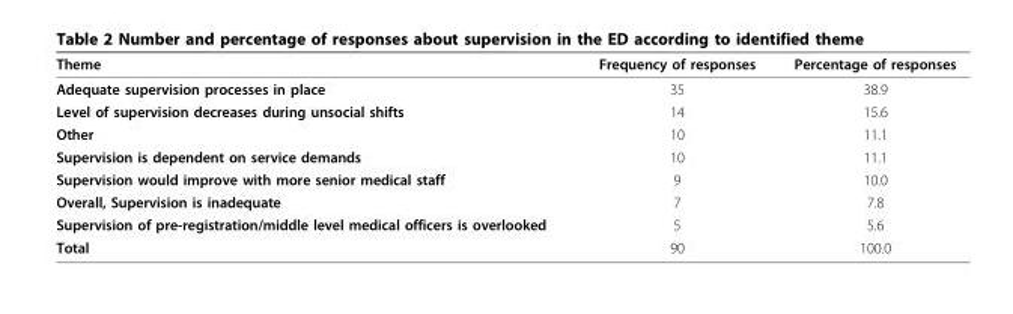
<table><thead><tr><td>Theme</td><td>Frequency of responses</td><td>Percentage of responses</td></tr></thead><tbody><tr><td>Adequate supervision processes in place</td><td>35</td><td>38.9</td></tr><tr><td>Level of supervision decreases during unsocial shifts</td><td>14</td><td>15.6</td></tr><tr><td>Other</td><td>10</td><td>11.1</td></tr><tr><td>Supervision is dependent on service demands</td><td>10</td><td>11.1</td></tr><tr><td>Supervision would improve with more senior medical staff</td><td>9</td><td>10.0</td></tr><tr><td>Overall, Supervision is inadequate</td><td>7</td><td>7.8</td></tr><tr><td>Supervision of pre-registration/middle level medical officers is overlooked</td><td>5</td><td>5.6</td></tr><tr><td>Total</td><td>90</td><td>100.0</td></tr></tbody></table>